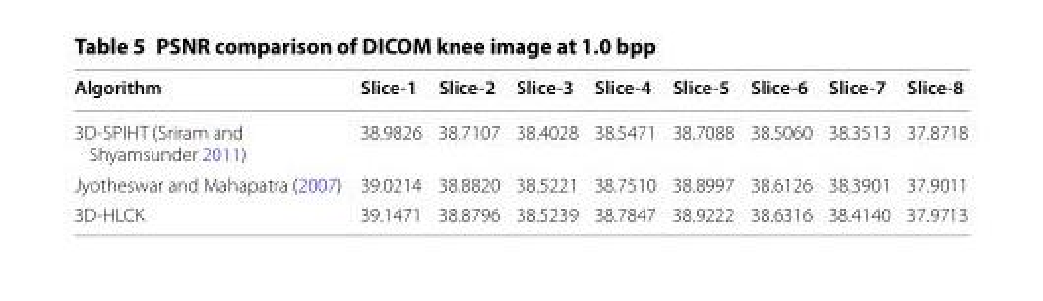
<table><thead><tr><td>Algorithm</td><td>Slice‑1</td><td>Slice‑2</td><td>Slice‑3</td><td>Slice‑4</td><td>Slice‑5</td><td>Slice‑6</td><td>Slice‑7</td><td>Slice‑8</td></tr></thead><tbody><tr><td>3D-SPIHT (Sriram and Shyamsunder 2011)</td><td>38.9826</td><td>38.7107</td><td>38.4028</td><td>38.5471</td><td>38.7088</td><td>38.5060</td><td>38.3513</td><td>37.8718</td></tr><tr><td>Jyotheswar and Mahapatra (2007)</td><td>39.0214</td><td>38.8820</td><td>38.5221</td><td>38.7510</td><td>38.8997</td><td>38.6126</td><td>38.3901</td><td>37.9011</td></tr><tr><td>3D-HLCK</td><td>39.1471</td><td>38.8796</td><td>38.5239</td><td>38.7847</td><td>38.9222</td><td>38.6316</td><td>38.4140</td><td>37.9713</td></tr></tbody></table>